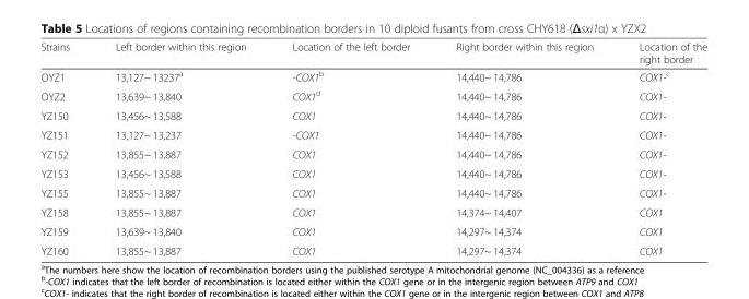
<table><thead><tr><td>Strains</td><td>Left border within this region</td><td>Location of the left border</td><td>Right border within this region</td><td>Location of the right border</td></tr></thead><tbody><tr><td>OYZ1</td><td>13,127~ 13237<sup>a</sup></td><td>-COX1<sup>b</sup></td><td>14,440~ 14,786</td><td>COX1-<sup>c</sup></td></tr><tr><td>OYZ2</td><td>13,639~ 13,840</td><td>COX1<sup>d</sup></td><td>14,440~ 14,786</td><td>COX1-</td></tr><tr><td>YZ150</td><td>13,456~ 13,588</td><td>COX1</td><td>14,440~ 14,786</td><td>COX1-</td></tr><tr><td>YZ151</td><td>13,127~ 13,237</td><td>-COX1</td><td>14,440~ 14,786</td><td>COX1-</td></tr><tr><td>YZ152</td><td>13,855~ 13,887</td><td>COX1</td><td>14,440~ 14,786</td><td>COX1-</td></tr><tr><td>YZ153</td><td>13,456~ 13,588</td><td>COX1</td><td>14,440~ 14,786</td><td>COX1-</td></tr><tr><td>YZ155</td><td>13,855~ 13,887</td><td>COX1</td><td>14,440~ 14,786</td><td>COX1-</td></tr><tr><td>YZ158</td><td>13,855~ 13,887</td><td>COX1</td><td>14,374~ 14,407</td><td>COX1</td></tr><tr><td>YZ159</td><td>13,639~ 13,840</td><td>COX1</td><td>14,297~ 14,374</td><td>COX1</td></tr><tr><td>YZ160</td><td>13,855~ 13,887</td><td>COX1</td><td>14,297~ 14,374</td><td>COX1</td></tr></tbody></table>